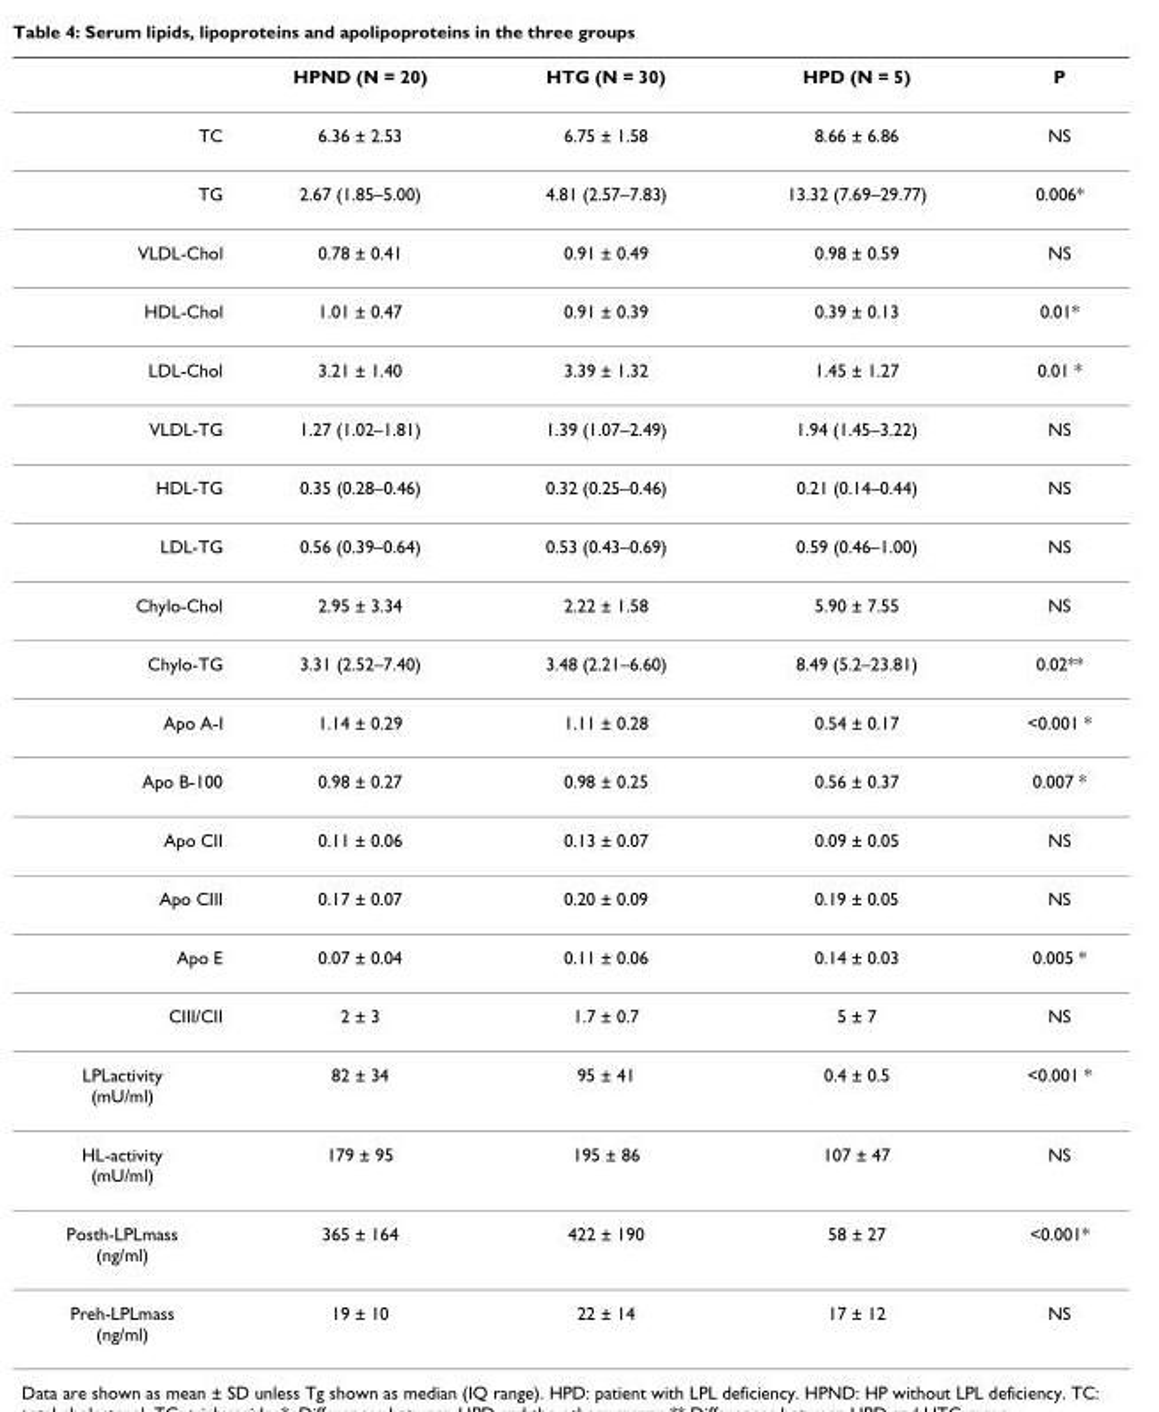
<table><thead><tr><td></td><td>HPND (N = 20)</td><td>HTG (N = 30)</td><td>HPD (N = 5)</td><td>P</td></tr></thead><tbody><tr><td>TC</td><td>6.36 ± 2.53</td><td>6.75 ± 1.58</td><td>8.66 ± 6.86</td><td>NS</td></tr><tr><td>TG</td><td>2.67 (1.85–5.00)</td><td>4.81 (2.57–7.83)</td><td>13.32 (7.69–29.77)</td><td>0.006*</td></tr><tr><td>VLDL-Chol</td><td>0.78 ± 0.41</td><td>0.91 ± 0.49</td><td>0.98 ± 0.59</td><td>NS</td></tr><tr><td>HDL-Chol</td><td>1.01 ± 0.47</td><td>0.91 ± 0.39</td><td>0.39 ± 0.13</td><td>0.01*</td></tr><tr><td>LDL-Chol</td><td>3.21 ± 1.40</td><td>3.39 ± 1.32</td><td>1.45 ± 1.27</td><td>0.01 *</td></tr><tr><td>VLDL-TG</td><td>1.27 (1.02–1.81)</td><td>1.39 (1.07–2.49)</td><td>1.94 (1.45–3.22)</td><td>NS</td></tr><tr><td>HDL-TG</td><td>0.35 (0.28–0.46)</td><td>0.32 (0.25–0.46)</td><td>0.21 (0.14–0.44)</td><td>NS</td></tr><tr><td>LDL-TG</td><td>0.56 (0.39–0.64)</td><td>0.53 (0.43–0.69)</td><td>0.59 (0.46–1.00)</td><td>NS</td></tr><tr><td>Chylo-Chol</td><td>2.95 ± 3.34</td><td>2.22 ± 1.58</td><td>5.90 ± 7.55</td><td>NS</td></tr><tr><td>Chylo-TG</td><td>3.31 (2.52–7.40)</td><td>3.48 (2.21–6.60)</td><td>8.49 (5.2–23.81)</td><td>0.02**</td></tr><tr><td>Apo A-I</td><td>1.14 ± 0.29</td><td>1.11 ± 0.28</td><td>0.54 ± 0.17</td><td>&lt;0.001 *</td></tr><tr><td>Apo B-100</td><td>0.98 ± 0.27</td><td>0.98 ± 0.25</td><td>0.56 ± 0.37</td><td>0.007 *</td></tr><tr><td>Apo CII</td><td>0.11 ± 0.06</td><td>0.13 ± 0.07</td><td>0.09 ± 0.05</td><td>NS</td></tr><tr><td>Apo CIII</td><td>0.17 ± 0.07</td><td>0.20 ± 0.09</td><td>0.19 ± 0.05</td><td>NS</td></tr><tr><td>Apo E</td><td>0.07 ± 0.04</td><td>0.11 ± 0.06</td><td>0.14 ± 0.03</td><td>0.005 *</td></tr><tr><td>CIII/CII</td><td>2 ± 3</td><td>1.7 ± 0.7</td><td>5 ± 7</td><td>NS</td></tr><tr><td>LPLactivity (mU/ml)</td><td>82 ± 34</td><td>95 ± 41</td><td>0.4 ± 0.5</td><td>&lt;0.001 *</td></tr><tr><td>HL-activity (mU/ml)</td><td>179 ± 95</td><td>195 ± 86</td><td>107 ± 47</td><td>NS</td></tr><tr><td>Posth-LPLmass (ng/ml)</td><td>365 ± 164</td><td>422 ± 190</td><td>58 ± 27</td><td>&lt;0.001*</td></tr><tr><td>Preh-LPLmass (ng/ml)</td><td>19 ± 10</td><td>22 ± 14</td><td>17 ± 12</td><td>NS</td></tr></tbody></table>